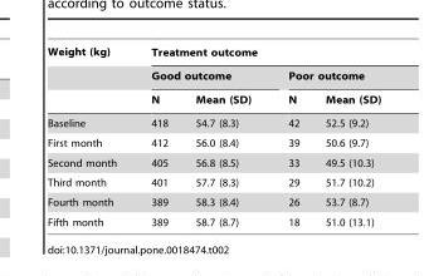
<table><thead><tr><td rowspan="3">Weight (kg)</td><td colspan="4">Treatment outcome</td></tr><tr><td colspan="2">Good outcome</td><td colspan="2">Poor outcome</td></tr><tr><td>N</td><td>Mean (SD)</td><td>N</td><td>Mean (SD)</td></tr></thead><tbody><tr><td>Baseline</td><td>418</td><td>54.7 (8.3)</td><td>42</td><td>52.5 (9.2)</td></tr><tr><td>First month</td><td>412</td><td>56.0 (8.4)</td><td>39</td><td>50.6 (9.7)</td></tr><tr><td>Second month</td><td>405</td><td>56.8 (8.5)</td><td>33</td><td>49.5 (10.3)</td></tr><tr><td>Third month</td><td>401</td><td>57.7 (8.3)</td><td>29</td><td>51.7 (10.2)</td></tr><tr><td>Fourth month</td><td>389</td><td>58.3 (8.4)</td><td>26</td><td>53.7 (8.7)</td></tr><tr><td>Fifth month</td><td>389</td><td>58.7 (8.7)</td><td>18</td><td>51.0 (13.1)</td></tr></tbody></table>